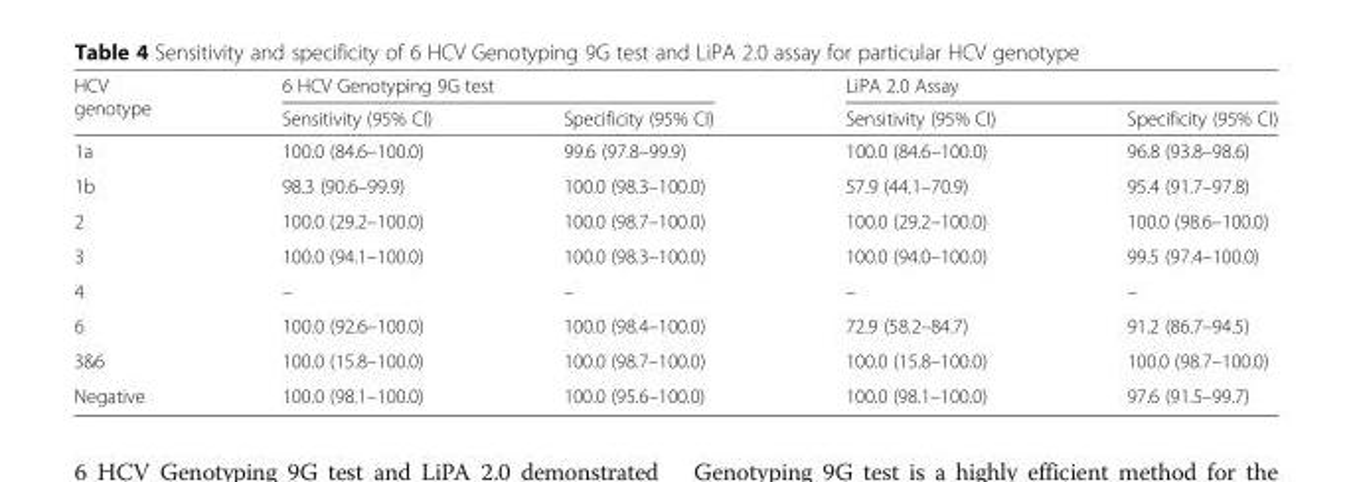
<table><thead><tr><td rowspan="2">HCV genotype</td><td colspan="2">6 HCV Genotyping 9G test</td><td colspan="2">LiPA 2.0 Assay</td></tr><tr><td>Sensitivity (95% CI)</td><td>Specificity (95% CI)</td><td>Sensitivity (95% CI)</td><td>Specificity (95% CI)</td></tr></thead><tbody><tr><td>1a</td><td>100.0 (84.6–100.0)</td><td>99.6 (97.8–99.9)</td><td>100.0 (84.6–100.0)</td><td>96.8 (93.8–98.6)</td></tr><tr><td>1b</td><td>98.3 (90.6–99.9)</td><td>100.0 (98.3–100.0)</td><td>57.9 (44.1–70.9)</td><td>95.4 (91.7–97.8)</td></tr><tr><td>2</td><td>100.0 (29.2–100.0)</td><td>100.0 (98.7–100.0)</td><td>100.0 (29.2–100.0)</td><td>100.0 (98.6–100.0)</td></tr><tr><td>3</td><td>100.0 (94.1–100.0)</td><td>100.0 (98.3–100.0)</td><td>100.0 (94.0–100.0)</td><td>99.5 (97.4–100.0)</td></tr><tr><td>4</td><td>–</td><td>–</td><td>–</td><td>–</td></tr><tr><td>6</td><td>100.0 (92.6–100.0)</td><td>100.0 (98.4–100.0)</td><td>72.9 (58.2–84.7)</td><td>91.2 (86.7–94.5)</td></tr><tr><td>3&amp;6</td><td>100.0 (15.8–100.0)</td><td>100.0 (98.7–100.0)</td><td>100.0 (15.8–100.0)</td><td>100.0 (98.7–100.0)</td></tr><tr><td>Negative</td><td>100.0 (98.1–100.0)</td><td>100.0 (95.6–100.0)</td><td>100.0 (98.1–100.0)</td><td>97.6 (91.5–99.7)</td></tr></tbody></table>